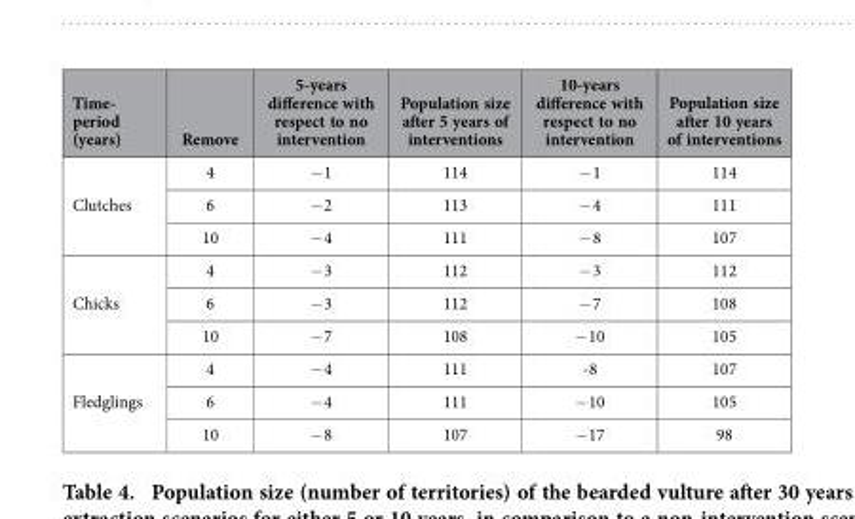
<table><thead><tr><td>Time- period (years)</td><td>Remove</td><td>5-years difference with respect to no intervention</td><td>Population size after 5 years of interventions</td><td>10-years difference with respect to no intervention</td><td>Population size after 10 years of interventions</td></tr></thead><tbody><tr><td rowspan="3">Clutches</td><td>4</td><td>− 1</td><td>114</td><td>− 1</td><td>114</td></tr><tr><td>6</td><td>− 2</td><td>113</td><td>− 4</td><td>111</td></tr><tr><td>10</td><td>− 4</td><td>111</td><td>− 8</td><td>107</td></tr><tr><td rowspan="3">Chicks</td><td>4</td><td>− 3</td><td>112</td><td>− 3</td><td>112</td></tr><tr><td>6</td><td>− 3</td><td>112</td><td>− 7</td><td>108</td></tr><tr><td>10</td><td>− 7</td><td>108</td><td>− 10</td><td>105</td></tr><tr><td rowspan="3">Fledglings</td><td>4</td><td>− 4</td><td>111</td><td>-8</td><td>107</td></tr><tr><td>6</td><td>− 4</td><td>111</td><td>− 10</td><td>105</td></tr><tr><td>10</td><td>− 8</td><td>107</td><td>− 17</td><td>98</td></tr></tbody></table>